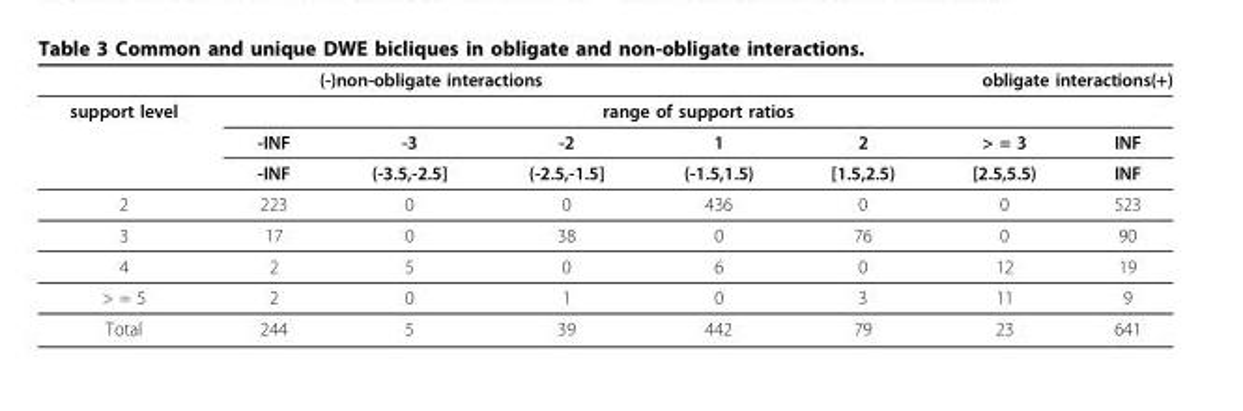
<table><thead><tr><td rowspan="3">support level</td><td colspan="3">(-)non-obligate interactions</td><td colspan="4">obligate interactions(+)</td></tr><tr><td colspan="7">range of support ratios</td></tr><tr><td>-INF</td><td>-3</td><td>-2</td><td>1</td><td>2</td><td>&gt; = 3</td><td>INF</td></tr></thead><tbody><tr><td></td><td>-INF</td><td>(-3.5,-2.5]</td><td>(-2.5,-1.5]</td><td>(-1.5,1.5)</td><td>[1.5,2.5)</td><td>[2.5,5.5)</td><td>INF</td></tr><tr><td>2</td><td>223</td><td>0</td><td>0</td><td>436</td><td>0</td><td>0</td><td>523</td></tr><tr><td>3</td><td>17</td><td>0</td><td>38</td><td>0</td><td>76</td><td>0</td><td>90</td></tr><tr><td>4</td><td>2</td><td>5</td><td>0</td><td>6</td><td>0</td><td>12</td><td>19</td></tr><tr><td>&gt; = 5</td><td>2</td><td>0</td><td>1</td><td>0</td><td>3</td><td>11</td><td>9</td></tr><tr><td>Total</td><td>244</td><td>5</td><td>39</td><td>442</td><td>79</td><td>23</td><td>641</td></tr></tbody></table>